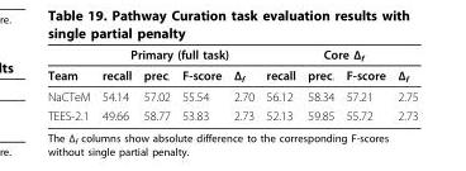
<table><thead><tr><td rowspan="2">Team</td><td colspan="4">Primary (full task)</td><td colspan="4">Core Δ<sub>f</sub></td></tr><tr><td>recall</td><td>prec.</td><td>F-score</td><td>Δ<sub>f</sub></td><td>recall</td><td>prec.</td><td>F-score</td><td>Δ<sub>f</sub></td></tr></thead><tbody><tr><td>NaCTeM</td><td>54.14</td><td>57.02</td><td>55.54</td><td>2.70</td><td>56.12</td><td>58.34</td><td>57.21</td><td>2.75</td></tr><tr><td>TEES-2.1</td><td>49.66</td><td>58.77</td><td>53.83</td><td>2.73</td><td>52.13</td><td>59.85</td><td>55.72</td><td>2.73</td></tr></tbody></table>